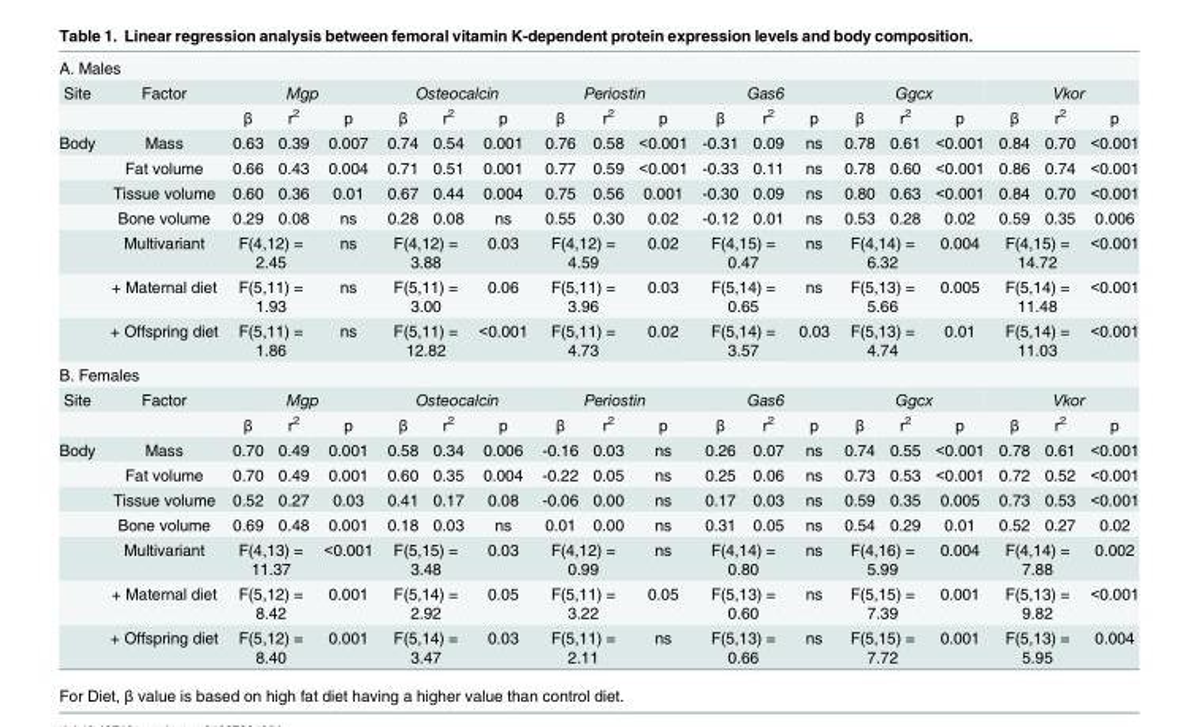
<table><tbody><tr><td colspan="20">A. Males</td></tr><tr><td rowspan="2">Site</td><td>Factor</td><td colspan="3">Mgp</td><td colspan="3">Osteocalcin</td><td colspan="3">Periostin</td><td colspan="3">Gas6</td><td colspan="3">Ggcx</td><td colspan="3">Vkor</td></tr><tr><td></td><td>β</td><td>r<sup>2</sup></td><td>p</td><td>β</td><td>r<sup>2</sup></td><td>p</td><td>β</td><td>r<sup>2</sup></td><td>p</td><td>β</td><td>r<sup>2</sup></td><td>p</td><td>β</td><td>r<sup>2</sup></td><td>p</td><td>β</td><td>r<sup>2</sup></td><td>p</td></tr><tr><td rowspan="7">Body</td><td>Mass</td><td>0.63</td><td>0.39</td><td>0.007</td><td>0.74</td><td>0.54</td><td>0.001</td><td>0.76</td><td>0.58</td><td>&lt;0.001</td><td>-0.31</td><td>0.09</td><td>ns</td><td>0.78</td><td>0.61</td><td>&lt;0.001</td><td>0.84</td><td>0.70</td><td>&lt;0.001</td></tr><tr><td>Fat volume</td><td>0.66</td><td>0.43</td><td>0.004</td><td>0.71</td><td>0.51</td><td>0.001</td><td>0.77</td><td>0.59</td><td>&lt;0.001</td><td>-0.33</td><td>0.11</td><td>ns</td><td>0.78</td><td>0.60</td><td>&lt;0.001</td><td>0.86</td><td>0.74</td><td>&lt;0.001</td></tr><tr><td>Tissue volume</td><td>0.60</td><td>0.36</td><td>0.01</td><td>0.67</td><td>0.44</td><td>0.004</td><td>0.75</td><td>0.56</td><td>0.001</td><td>-0.30</td><td>0.09</td><td>ns</td><td>0.80</td><td>0.63</td><td>&lt;0.001</td><td>0.84</td><td>0.70</td><td>&lt;0.001</td></tr><tr><td>Bone volume</td><td>0.29</td><td>0.08</td><td>ns</td><td>0.28</td><td>0.08</td><td>ns</td><td>0.55</td><td>0.30</td><td>0.02</td><td>-0.12</td><td>0.01</td><td>ns</td><td>0.53</td><td>0.28</td><td>0.02</td><td>0.59</td><td>0.35</td><td>0.006</td></tr><tr><td>Multivariant</td><td colspan="2">F(4,12) = 2.45</td><td>ns</td><td colspan="2">F(4,12) = 3.88</td><td>0.03</td><td colspan="2">F(4,12) = 4.59</td><td>0.02</td><td colspan="2">F(4,15) = 0.47</td><td>ns</td><td colspan="2">F(4,14) = 6.32</td><td>0.004</td><td colspan="2">F(4,15) = 14.72</td><td>&lt;0.001</td></tr><tr><td>+ Maternal diet</td><td colspan="2">F(5,11) = 1.93</td><td>ns</td><td colspan="2">F(5,11) = 3.00</td><td>0.06</td><td colspan="2">F(5,11) = 3.96</td><td>0.03</td><td colspan="2">F(5,14) = 0.65</td><td>ns</td><td colspan="2">F(5,13) = 5.66</td><td>0.005</td><td colspan="2">F(5,14) = 11.48</td><td>&lt;0.001</td></tr><tr><td>+ Offspring diet</td><td colspan="2">F(5,11) = 1.86</td><td>ns</td><td colspan="2">F(5,11) = 12.82</td><td>&lt;0.001</td><td colspan="2">F(5,11) = 4.73</td><td>0.02</td><td colspan="2">F(5,14) = 3.57</td><td>0.03</td><td colspan="2">F(5,13) = 4.74</td><td>0.01</td><td colspan="2">F(5,14) = 11.03</td><td>&lt;0.001</td></tr><tr><td colspan="20">B. Females</td></tr><tr><td rowspan="2">Site</td><td>Factor</td><td colspan="3">Mgp</td><td colspan="3">Osteocalcin</td><td colspan="3">Periostin</td><td colspan="3">Gas6</td><td colspan="3">Ggcx</td><td colspan="3">Vkor</td></tr><tr><td></td><td>β</td><td>r<sup>2</sup></td><td>p</td><td>β</td><td>r<sup>2</sup></td><td>p</td><td>β</td><td>r<sup>2</sup></td><td>p</td><td>β</td><td>r<sup>2</sup></td><td>p</td><td>β</td><td>r<sup>2</sup></td><td>p</td><td>β</td><td>r<sup>2</sup></td><td>p</td></tr><tr><td rowspan="7">Body</td><td>Mass</td><td>0.70</td><td>0.49</td><td>0.001</td><td>0.58</td><td>0.34</td><td>0.006</td><td>-0.16</td><td>0.03</td><td>ns</td><td>0.26</td><td>0.07</td><td>ns</td><td>0.74</td><td>0.55</td><td>&lt;0.001</td><td>0.78</td><td>0.61</td><td>&lt;0.001</td></tr><tr><td>Fat volume</td><td>0.70</td><td>0.49</td><td>0.001</td><td>0.60</td><td>0.35</td><td>0.004</td><td>-0.22</td><td>0.05</td><td>ns</td><td>0.25</td><td>0.06</td><td>ns</td><td>0.73</td><td>0.53</td><td>&lt;0.001</td><td>0.72</td><td>0.52</td><td>&lt;0.001</td></tr><tr><td>Tissue volume</td><td>0.52</td><td>0.27</td><td>0.03</td><td>0.41</td><td>0.17</td><td>0.08</td><td>-0.06</td><td>0.00</td><td>ns</td><td>0.17</td><td>0.03</td><td>ns</td><td>0.59</td><td>0.35</td><td>0.005</td><td>0.73</td><td>0.53</td><td>&lt;0.001</td></tr><tr><td>Bone volume</td><td>0.69</td><td>0.48</td><td>0.001</td><td>0.18</td><td>0.03</td><td>ns</td><td>0.01</td><td>0.00</td><td>ns</td><td>0.31</td><td>0.05</td><td>ns</td><td>0.54</td><td>0.29</td><td>0.01</td><td>0.52</td><td>0.27</td><td>0.02</td></tr><tr><td>Multivariant</td><td colspan="2">F(4,13) = 11.37</td><td>&lt;0.001</td><td colspan="2">F(5,15) = 3.48</td><td>0.03</td><td colspan="2">F(4,12) = 0.99</td><td>ns</td><td colspan="2">F(4,14) = 0.80</td><td>ns</td><td colspan="2">F(4,16) = 5.99</td><td>0.004</td><td colspan="2">F(4,14) = 7.88</td><td>0.002</td></tr><tr><td>+ Maternal diet</td><td colspan="2">F(5,12) = 8.42</td><td>0.001</td><td colspan="2">F(5,14) = 2.92</td><td>0.05</td><td colspan="2">F(5,11) = 3.22</td><td>0.05</td><td colspan="2">F(5,13) = 0.60</td><td>ns</td><td colspan="2">F(5,15) = 7.39</td><td>0.001</td><td colspan="2">F(5,13) = 9.82</td><td>&lt;0.001</td></tr><tr><td>+ Offspring diet</td><td colspan="2">F(5,12) = 8.40</td><td>0.001</td><td colspan="2">F(5,14) = 3.47</td><td>0.03</td><td colspan="2">F(5,11) = 2.11</td><td>ns</td><td colspan="2">F(5,13) = 0.66</td><td>ns</td><td colspan="2">F(5,15) = 7.72</td><td>0.001</td><td colspan="2">F(5,13) = 5.95</td><td>0.004</td></tr></tbody></table>